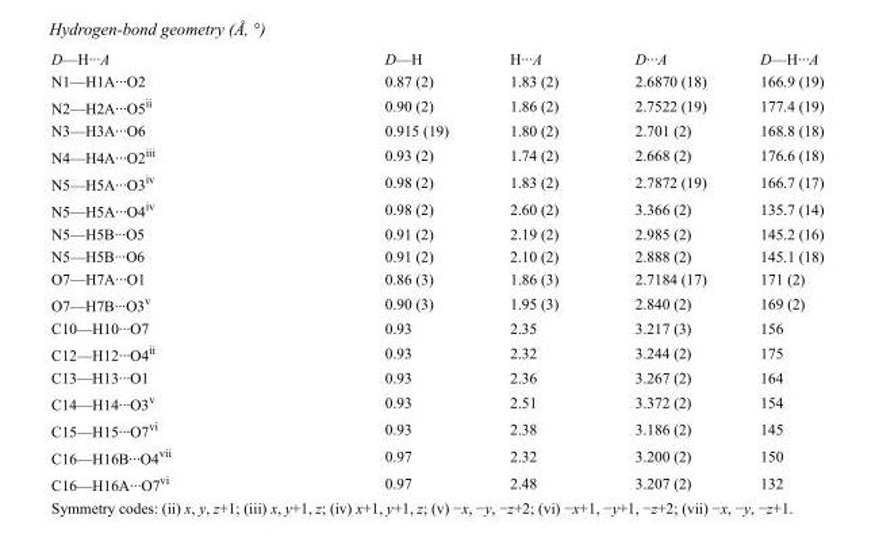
<table><tbody><tr><td>D—H···A</td><td>D—H</td><td>H···A</td><td>D···A</td><td>D—H···A</td></tr><tr><td>N1—H1A···O2</td><td>0.87 (2)</td><td>1.83 (2)</td><td>2.6870 (18)</td><td>166.9 (19)</td></tr><tr><td>N2—H2A···O5<sup>ii</sup></td><td>0.90 (2)</td><td>1.86 (2)</td><td>2.7522 (19)</td><td>177.4 (19)</td></tr><tr><td>N3—H3A···O6</td><td>0.915 (19)</td><td>1.80 (2)</td><td>2.701 (2)</td><td>168.8 (18)</td></tr><tr><td>N4—H4A···O2<sup>iii</sup></td><td>0.93 (2)</td><td>1.74 (2)</td><td>2.668 (2)</td><td>176.6 (18)</td></tr><tr><td>N5—H5A···O3<sup>iv</sup></td><td>0.98 (2)</td><td>1.83 (2)</td><td>2.7872 (19)</td><td>166.7 (17)</td></tr><tr><td>N5—H5A···O4<sup>iv</sup></td><td>0.98 (2)</td><td>2.60 (2)</td><td>3.366 (2)</td><td>135.7 (14)</td></tr><tr><td>N5—H5B···O5</td><td>0.91 (2)</td><td>2.19 (2)</td><td>2.985 (2)</td><td>145.2 (16)</td></tr><tr><td>N5—H5B···O6</td><td>0.91 (2)</td><td>2.10 (2)</td><td>2.888 (2)</td><td>145.1 (18)</td></tr><tr><td>O7—H7A···O1</td><td>0.86 (3)</td><td>1.86 (3)</td><td>2.7184 (17)</td><td>171 (2)</td></tr><tr><td>O7—H7B···O3<sup>v</sup></td><td>0.90 (3)</td><td>1.95 (3)</td><td>2.840 (2)</td><td>169 (2)</td></tr><tr><td>C10—H10···O7</td><td>0.93</td><td>2.35</td><td>3.217 (3)</td><td>156</td></tr><tr><td>C12—H12···O4<sup>ii</sup></td><td>0.93</td><td>2.32</td><td>3.244 (2)</td><td>175</td></tr><tr><td>C13—H13···O1</td><td>0.93</td><td>2.36</td><td>3.267 (2)</td><td>164</td></tr><tr><td>C14—H14···O3<sup>v</sup></td><td>0.93</td><td>2.51</td><td>3.372 (2)</td><td>154</td></tr><tr><td>C15—H15···O7<sup>vi</sup></td><td>0.93</td><td>2.38</td><td>3.186 (2)</td><td>145</td></tr><tr><td>C16—H16B···O4<sup>vii</sup></td><td>0.97</td><td>2.32</td><td>3.200 (2)</td><td>150</td></tr><tr><td>C16—H16A···O7<sup>vi</sup></td><td>0.97</td><td>2.48</td><td>3.207 (2)</td><td>132</td></tr></tbody></table>